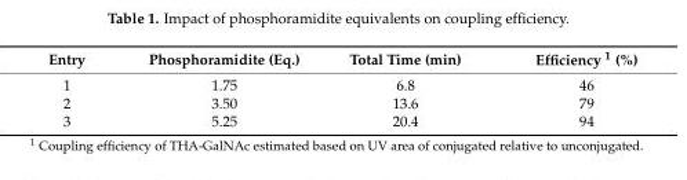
<table><thead><tr><td>Entry</td><td>Phosphoramidite (Eq.)</td><td>Total Time (min)</td><td>Efficiency 1 (%)</td></tr></thead><tbody><tr><td>1</td><td>1.75</td><td>6.8</td><td>46</td></tr><tr><td>2</td><td>3.50</td><td>13.6</td><td>79</td></tr><tr><td>3</td><td>5.25</td><td>20.4</td><td>94</td></tr></tbody></table>